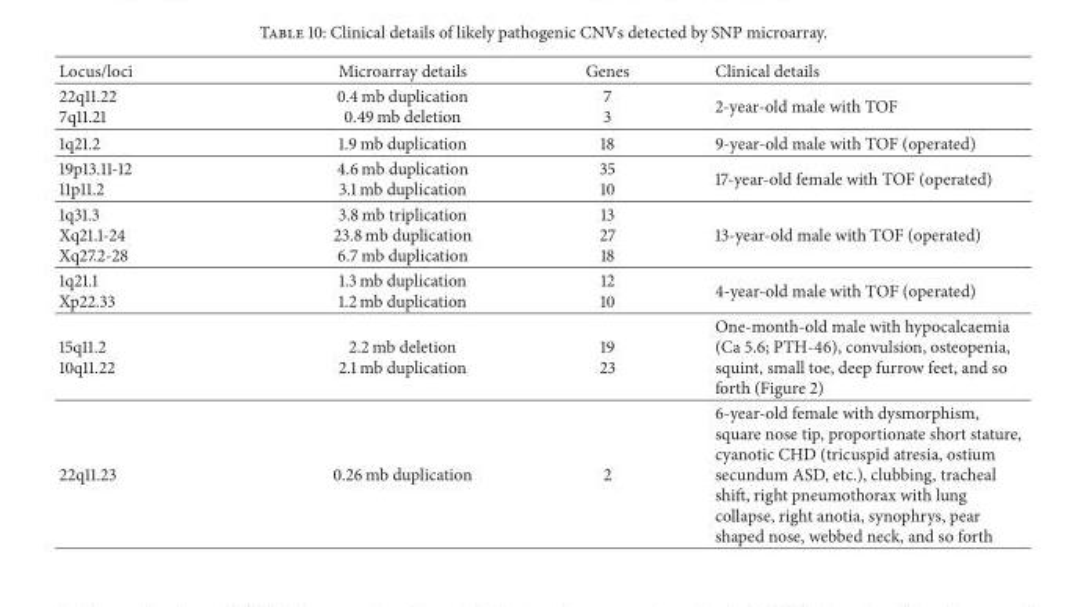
<table><thead><tr><td>Locus/loci</td><td>Microarray details</td><td>Genes</td><td>Clinical details</td></tr></thead><tbody><tr><td>22q11.22 7q11.21</td><td>0.4 mb duplication 0.49 mb deletion</td><td>7 3</td><td>2-year-old male with TOF</td></tr><tr><td>1q21.2</td><td>1.9 mb duplication</td><td>18</td><td>9-year-old male with TOF (operated)</td></tr><tr><td>19p13.11-12 11p11.2</td><td>4.6 mb duplication 3.1 mb duplication</td><td>35 10</td><td>17-year-old female with TOF (operated)</td></tr><tr><td>1q31.3 Xq21.1-24 Xq27.2-28</td><td>3.8 mb triplication 23.8 mb duplication 6.7 mb duplication</td><td>13 27 18</td><td>13-year-old male with TOF (operated)</td></tr><tr><td>1q21.1 Xp22.33</td><td>1.3 mb duplication 1.2 mb duplication</td><td>12 10</td><td>4-year-old male with TOF (operated)</td></tr><tr><td>15q11.2 10q11.22</td><td>2.2 mb deletion 2.1 mb duplication</td><td>19 23</td><td>One-month-old male with hypocalcaemia (Ca 5.6; PTH-46), convulsion, osteopenia, squint, small toe, deep furrow feet, and so forth (Figure 2)</td></tr><tr><td>22q11.23</td><td>0.26 mb duplication</td><td>2</td><td>6-year-old female with dysmorphism, square nose tip, proportionate short stature, cyanotic CHD (tricuspid atresia, ostium secundum ASD, etc.), clubbing, tracheal shift, right pneumothorax with lung collapse, right anotia, synophrys, pear shaped nose, webbed neck, and so forth</td></tr></tbody></table>